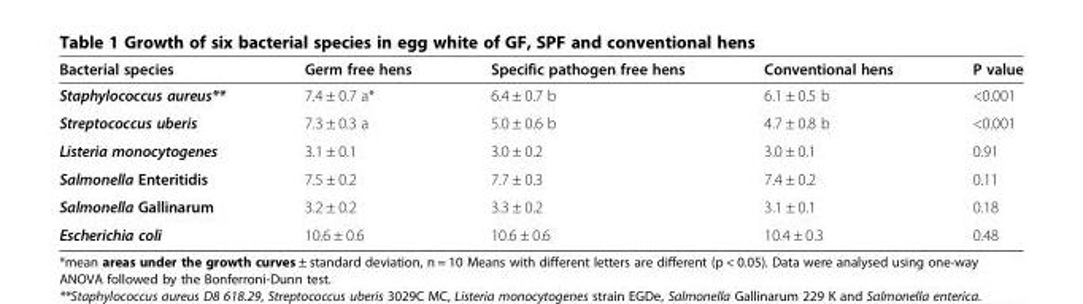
<table><thead><tr><td>Bacterial species</td><td>Germ free hens</td><td>Specific pathogen free hens</td><td>Conventional hens</td><td>P value</td></tr></thead><tbody><tr><td>Staphylococcus aureus**</td><td>7.4 ± 0.7 a*</td><td>6.4 ± 0.7 b</td><td>6.1 ± 0.5 b</td><td>&lt;0.001</td></tr><tr><td>Streptococcus uberis</td><td>7.3 ± 0.3 a</td><td>5.0 ± 0.6 b</td><td>4.7 ± 0.8 b</td><td>&lt;0.001</td></tr><tr><td>Listeria monocytogenes</td><td>3.1 ± 0.1</td><td>3.0 ± 0.2</td><td>3.0 ± 0.1</td><td>0.91</td></tr><tr><td>Salmonella Enteritidis</td><td>7.5 ± 0.2</td><td>7.7 ± 0.3</td><td>7.4 ± 0.2</td><td>0.11</td></tr><tr><td>Salmonella Gallinarum</td><td>3.2 ± 0.2</td><td>3.3 ± 0.2</td><td>3.1 ± 0.1</td><td>0.18</td></tr><tr><td>Escherichia coli</td><td>10.6 ± 0.6</td><td>10.6 ± 0.6</td><td>10.4 ± 0.3</td><td>0.48</td></tr></tbody></table>